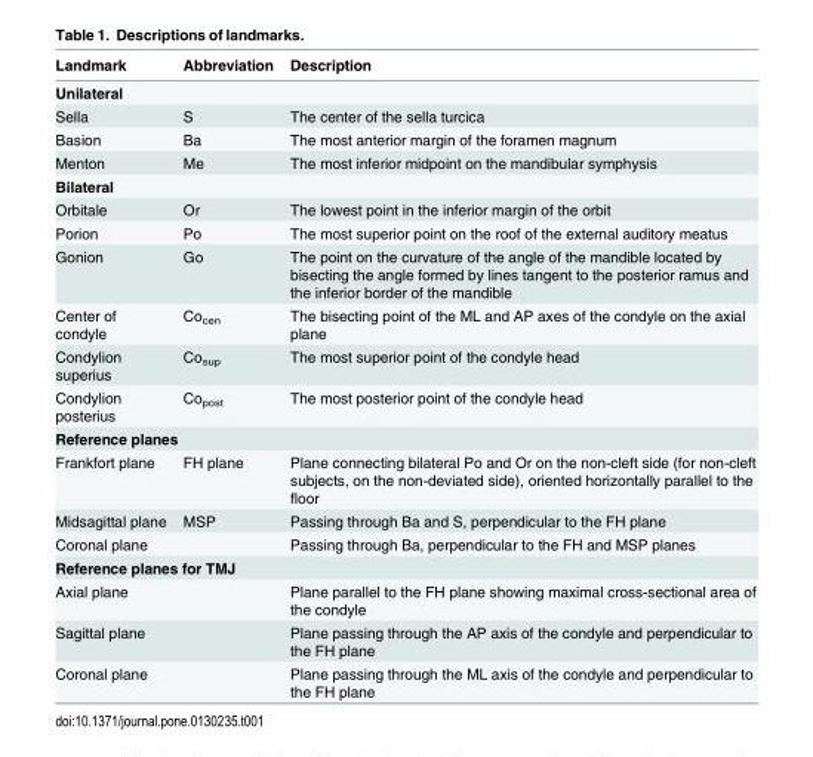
<table><thead><tr><td>Landmark</td><td>Abbreviation</td><td>Description</td></tr></thead><tbody><tr><td colspan="3">Unilateral</td></tr><tr><td>Sella</td><td>S</td><td>The center of the sella turcica</td></tr><tr><td>Basion</td><td>Ba</td><td>The most anterior margin of the foramen magnum</td></tr><tr><td>Menton</td><td>Me</td><td>The most inferior midpoint on the mandibular symphysis</td></tr><tr><td colspan="3">Bilateral</td></tr><tr><td>Orbitale</td><td>Or</td><td>The lowest point in the inferior margin of the orbit</td></tr><tr><td>Porion</td><td>Po</td><td>The most superior point on the roof of the external auditory meatus</td></tr><tr><td>Gonion</td><td>Go</td><td>The point on the curvature of the angle of the mandible located by bisecting the angle formed by lines tangent to the posterior ramus and the inferior border of the mandible</td></tr><tr><td>Center of condyle</td><td>Co<sub>cen</sub></td><td>The bisecting point of the ML and AP axes of the condyle on the axial plane</td></tr><tr><td>Condylion superius</td><td>Co<sub>sup</sub></td><td>The most superior point of the condyle head</td></tr><tr><td>Condylion posterius</td><td>Co<sub>post</sub></td><td>The most posterior point of the condyle head</td></tr><tr><td colspan="3">Reference planes</td></tr><tr><td>Frankfort plane</td><td>FH plane</td><td>Plane connecting bilateral Po and Or on the non-cleft side (for non-cleft subjects, on the non-deviated side), oriented horizontally parallel to the floor</td></tr><tr><td>Midsagittal plane</td><td>MSP</td><td>Passing through Ba and S, perpendicular to the FH plane</td></tr><tr><td>Coronal plane</td><td></td><td>Passing through Ba, perpendicular to the FH and MSP planes</td></tr><tr><td colspan="3">Reference planes for TMJ</td></tr><tr><td>Axial plane</td><td></td><td>Plane parallel to the FH plane showing maximal cross-sectional area of the condyle</td></tr><tr><td>Sagittal plane</td><td></td><td>Plane passing through the AP axis of the condyle and perpendicular to the FH plane</td></tr><tr><td>Coronal plane</td><td></td><td>Plane passing through the ML axis of the condyle and perpendicular to the FH plane</td></tr></tbody></table>